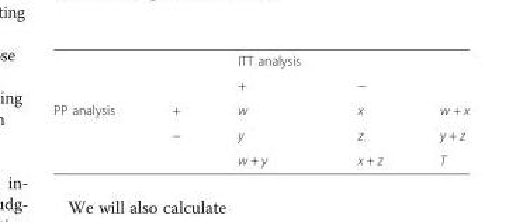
<table><thead><tr><td></td><td></td><td>ITT analysis</td><td></td><td></td></tr></thead><tbody><tr><td></td><td></td><td>+</td><td>−</td><td></td></tr><tr><td rowspan="3">PP analysis</td><td>+</td><td>w</td><td>x</td><td>w + x</td></tr><tr><td>−</td><td>y</td><td>z</td><td>y + z</td></tr><tr><td></td><td>w + y</td><td>x + z</td><td>T</td></tr></tbody></table>